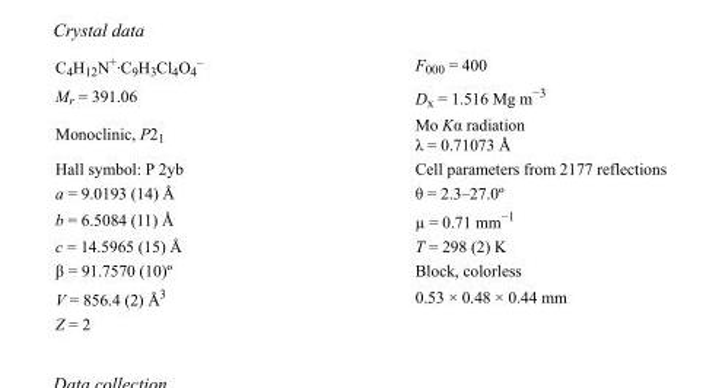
<table><tbody><tr><td>C<sub>4</sub>H<sub>12</sub>N<sup>+</sup>·C<sub>9</sub>H<sub>3</sub>Cl<sub>4</sub>O<sub>4</sub> <sup>–</sup></td><td>F<sub>000</sub> = 400</td></tr><tr><td>M<sub>r</sub> = 391.06</td><td>D<sub>x</sub> = 1.516 Mg m<sup>−3</sup></td></tr><tr><td>Monoclinic, P2<sub>1</sub></td><td>Mo Kα radiation λ = 0.71073 Å</td></tr><tr><td>Hall symbol: P 2yb</td><td>Cell parameters from 2177 reflections</td></tr><tr><td>a = 9.0193 (14) Å</td><td>θ = 2.3–27.0º</td></tr><tr><td>b = 6.5084 (11) Å</td><td>µ = 0.71 mm<sup>−1</sup></td></tr><tr><td>c = 14.5965 (15) Å</td><td>T = 298 (2) K</td></tr><tr><td>β = 91.7570 (10)º</td><td>Block, colorless</td></tr><tr><td>V = 856.4 (2) Å<sup>3</sup></td><td>0.53 × 0.48 × 0.44 mm</td></tr><tr><td>Z = 2</td><td></td></tr></tbody></table>